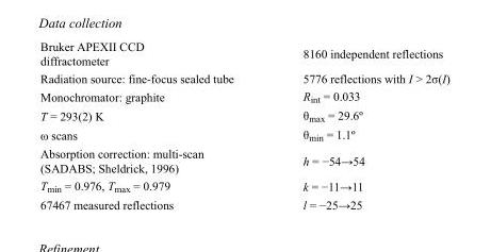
<table><tbody><tr><td>Bruker APEXII CCD diffractometer</td><td>8160 independent reflections</td></tr><tr><td>Radiation source: fine-focus sealed tube</td><td>5776 reflections with I &gt; 2σ(I)</td></tr><tr><td>Monochromator: graphite</td><td>R<sub>int</sub> = 0.033</td></tr><tr><td>T = 293(2) K</td><td>θ<sub>max</sub> = 29.6º</td></tr><tr><td>ω scans</td><td>θ<sub>min</sub> = 1.1º</td></tr><tr><td>Absorption correction: multi-scan (SADABS; Sheldrick, 1996)</td><td>h = −54→54</td></tr><tr><td>T<sub>min</sub> = 0.976, T<sub>max</sub> = 0.979</td><td>k = −11→11</td></tr><tr><td>67467 measured reflections</td><td>l = −25→25</td></tr></tbody></table>